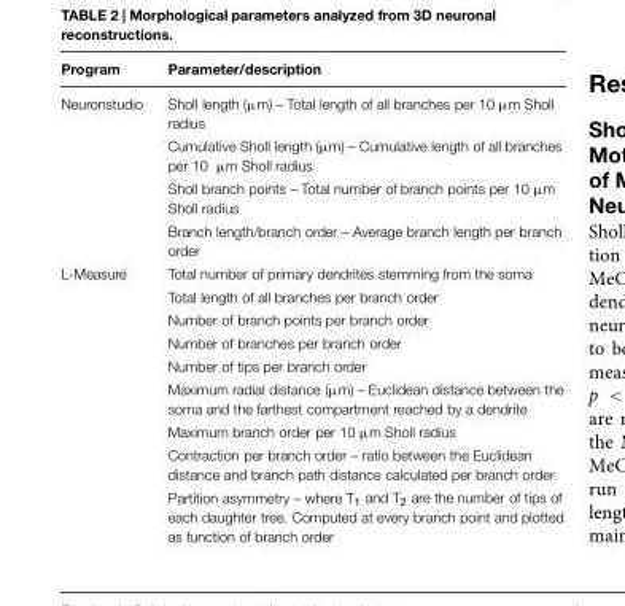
<table><thead><tr><td>Program</td><td>Parameter/description</td></tr></thead><tbody><tr><td rowspan="4">Neuronstudio</td><td>Sholl length (µm) – Total length of all branches per 10 µm Sholl radius</td></tr><tr><td>Cumulative Sholl length (µm) – Cumulative length of all branches per 10 µm Sholl radius</td></tr><tr><td>Sholl branch points – Total number of branch points per 10 µm Sholl radius</td></tr><tr><td>Branch length/branch order – Average branch length per branch order</td></tr><tr><td rowspan="9">L-Measure</td><td>Total number of primary dendrites stemming from the soma</td></tr><tr><td>Total length of all branches per branch order</td></tr><tr><td>Number of branch points per branch order</td></tr><tr><td>Number of branches per branch order</td></tr><tr><td>Number of tips per branch order</td></tr><tr><td>Maximum radial distance (µm) – Euclidean distance between the soma and the farthest compartment reached by a dendrite</td></tr><tr><td>Maximum branch order per 10 µm Sholl radius</td></tr><tr><td>Contraction per branch order – ratio between the Euclidean distance and branch path distance calculated per branch order</td></tr><tr><td>Partition asymmetry – where T<sub>1</sub> and T<sub>2</sub> are the number of tips of each daughter tree. Computed at every branch point and plotted as function of branch order</td></tr></tbody></table>